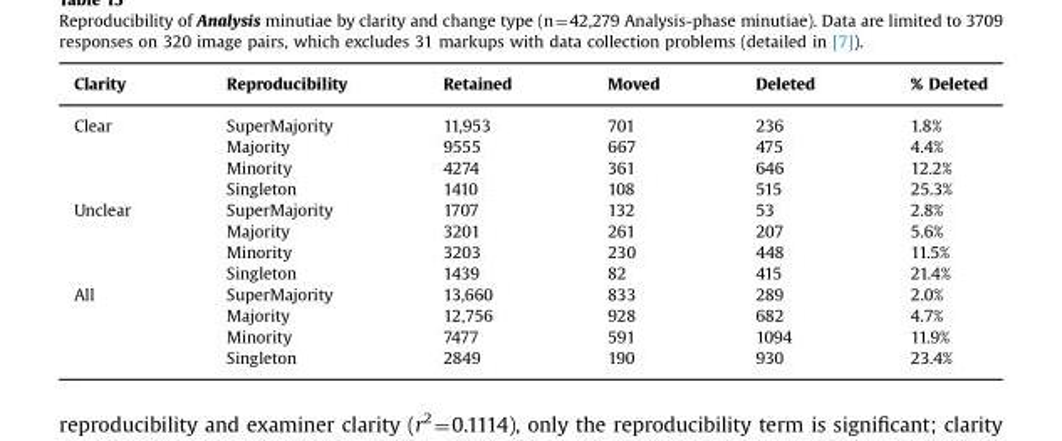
<table><thead><tr><td>Clarity</td><td>Reproducibility</td><td>Retained</td><td>Moved</td><td>Deleted</td><td>% Deleted</td></tr></thead><tbody><tr><td rowspan="4">Clear</td><td>SuperMajority</td><td>11,953</td><td>701</td><td>236</td><td>1.8%</td></tr><tr><td>Majority</td><td>9555</td><td>667</td><td>475</td><td>4.4%</td></tr><tr><td>Minority</td><td>4274</td><td>361</td><td>646</td><td>12.2%</td></tr><tr><td>Singleton</td><td>1410</td><td>108</td><td>515</td><td>25.3%</td></tr><tr><td rowspan="4">Unclear</td><td>SuperMajority</td><td>1707</td><td>132</td><td>53</td><td>2.8%</td></tr><tr><td>Majority</td><td>3201</td><td>261</td><td>207</td><td>5.6%</td></tr><tr><td>Minority</td><td>3203</td><td>230</td><td>448</td><td>11.5%</td></tr><tr><td>Singleton</td><td>1439</td><td>82</td><td>415</td><td>21.4%</td></tr><tr><td rowspan="4">All</td><td>SuperMajority</td><td>13,660</td><td>833</td><td>289</td><td>2.0%</td></tr><tr><td>Majority</td><td>12,756</td><td>928</td><td>682</td><td>4.7%</td></tr><tr><td>Minority</td><td>7477</td><td>591</td><td>1094</td><td>11.9%</td></tr><tr><td>Singleton</td><td>2849</td><td>190</td><td>930</td><td>23.4%</td></tr></tbody></table>